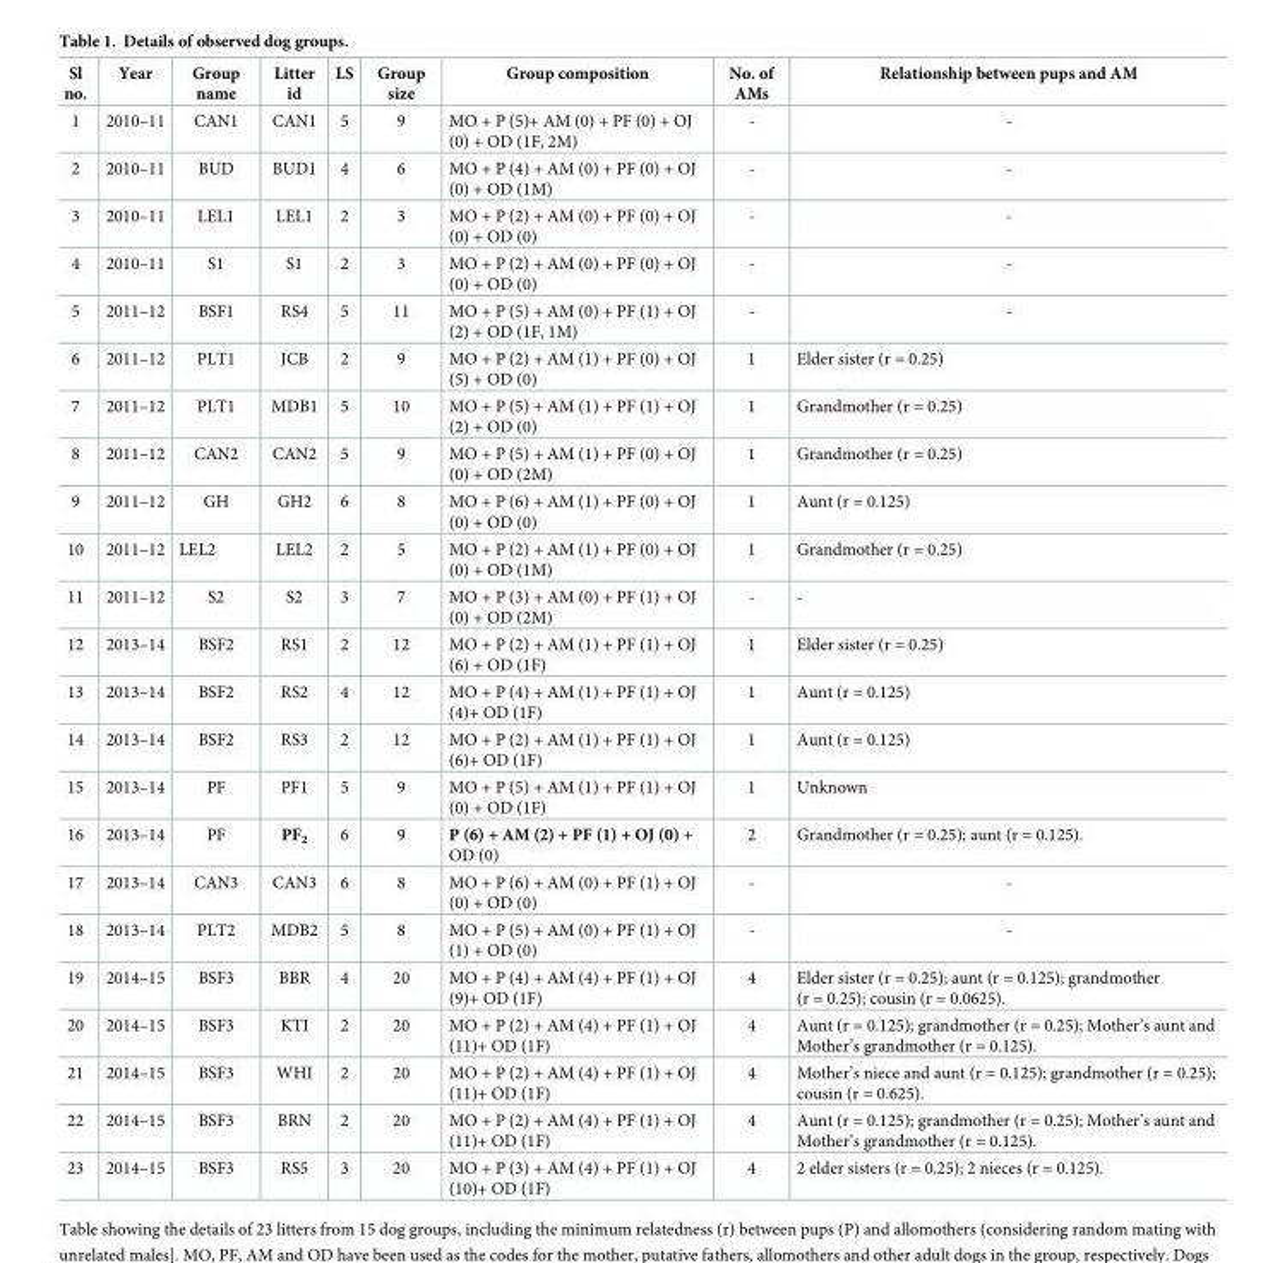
<table><thead><tr><td>Sl no.</td><td>Year</td><td>Group name</td><td>Litter id</td><td>LS</td><td>Group size</td><td>Group composition</td><td>No. of AMs</td><td>Relationship between pups and AM</td></tr></thead><tbody><tr><td>1</td><td>2010–11</td><td>CAN1</td><td>CAN1</td><td>5</td><td>9</td><td>MO + P (5)+ AM (0) + PF (0) + OJ (0) + OD (1F, 2M)</td><td>-</td><td>-</td></tr><tr><td>2</td><td>2010–11</td><td>BUD</td><td>BUD1</td><td>4</td><td>6</td><td>MO + P (4) + AM (0) + PF (0) + OJ (0) + OD (1M)</td><td>-</td><td>-</td></tr><tr><td>3</td><td>2010–11</td><td>LEL1</td><td>LEL1</td><td>2</td><td>3</td><td>MO + P (2) + AM (0) + PF (0) + OJ (0) + OD (0)</td><td>-</td><td>-</td></tr><tr><td>4</td><td>2010–11</td><td>S1</td><td>S1</td><td>2</td><td>3</td><td>MO + P (2) + AM (0) + PF (0) + OJ (0) + OD (0)</td><td>-</td><td>-</td></tr><tr><td>5</td><td>2011–12</td><td>BSF1</td><td>RS4</td><td>5</td><td>11</td><td>MO + P (5) + AM (0) + PF (1) + OJ (2) + OD (1F, 1M)</td><td>-</td><td>-</td></tr><tr><td>6</td><td>2011–12</td><td>PLT1</td><td>JCB</td><td>2</td><td>9</td><td>MO + P (2) + AM (1) + PF (0) + OJ (5) + OD (0)</td><td>1</td><td>Elder sister (r = 0.25)</td></tr><tr><td>7</td><td>2011–12</td><td>PLT1</td><td>MDB1</td><td>5</td><td>10</td><td>MO + P (5) + AM (1) + PF (1) + OJ (2) + OD (0)</td><td>1</td><td>Grandmother (r = 0.25)</td></tr><tr><td>8</td><td>2011–12</td><td>CAN2</td><td>CAN2</td><td>5</td><td>9</td><td>MO + P (5) + AM (1) + PF (0) + OJ (0) + OD (2M)</td><td>1</td><td>Grandmother (r = 0.25)</td></tr><tr><td>9</td><td>2011–12</td><td>GH</td><td>GH2</td><td>6</td><td>8</td><td>MO + P (6) + AM (1) + PF (0) + OJ (0) + OD (0)</td><td>1</td><td>Aunt (r = 0.125)</td></tr><tr><td>10</td><td>2011–12</td><td>LEL2</td><td>LEL2</td><td>2</td><td>5</td><td>MO + P (2) + AM (1) + PF (0) + OJ (0) + OD (1M)</td><td>1</td><td>Grandmother (r = 0.25)</td></tr><tr><td>11</td><td>2011–12</td><td>S2</td><td>S2</td><td>3</td><td>7</td><td>MO + P (3) + AM (0) + PF (1) + OJ (0) + OD (2M)</td><td>-</td><td>-</td></tr><tr><td>12</td><td>2013–14</td><td>BSF2</td><td>RS1</td><td>2</td><td>12</td><td>MO + P (2) + AM (1) + PF (1) + OJ (6) + OD (1F)</td><td>1</td><td>Elder sister (r = 0.25)</td></tr><tr><td>13</td><td>2013–14</td><td>BSF2</td><td>RS2</td><td>4</td><td>12</td><td>MO + P (4) + AM (1) + PF (1) + OJ (4)+ OD (1F)</td><td>1</td><td>Aunt (r = 0.125)</td></tr><tr><td>14</td><td>2013–14</td><td>BSF2</td><td>RS3</td><td>2</td><td>12</td><td>MO + P (2) + AM (1) + PF (1) + OJ (6)+ OD (1F)</td><td>1</td><td>Aunt (r = 0.125)</td></tr><tr><td>15</td><td>2013–14</td><td>PF</td><td>PF1</td><td>5</td><td>9</td><td>MO + P (5) + AM (1) + PF (1) + OJ (0) + OD (1F)</td><td>1</td><td>Unknown</td></tr><tr><td>16</td><td>2013–14</td><td>PF</td><td>PF<sub>2</sub></td><td>6</td><td>9</td><td>P (6) + AM (2) + PF (1) + OJ (0) + OD (0)</td><td>2</td><td>Grandmother (r = 0.25); aunt (r = 0.125).</td></tr><tr><td>17</td><td>2013–14</td><td>CAN3</td><td>CAN3</td><td>6</td><td>8</td><td>MO + P (6) + AM (0) + PF (1) + OJ (0) + OD (0)</td><td>-</td><td>-</td></tr><tr><td>18</td><td>2013–14</td><td>PLT2</td><td>MDB2</td><td>5</td><td>8</td><td>MO + P (5) + AM (0) + PF (1) + OJ (1) + OD (0)</td><td>-</td><td>-</td></tr><tr><td>19</td><td>2014–15</td><td>BSF3</td><td>BBR</td><td>4</td><td>20</td><td>MO + P (4) + AM (4) + PF (1) + OJ (9)+ OD (1F)</td><td>4</td><td>Elder sister (r = 0.25); aunt (r = 0.125); grandmother (r = 0.25); cousin (r = 0.0625).</td></tr><tr><td>20</td><td>2014–15</td><td>BSF3</td><td>KTI</td><td>2</td><td>20</td><td>MO + P (2) + AM (4) + PF (1) + OJ (11)+ OD (1F)</td><td>4</td><td>Aunt (r = 0.125); grandmother (r = 0.25); Mother’s aunt and Mother’s grandmother (r = 0.125).</td></tr><tr><td>21</td><td>2014–15</td><td>BSF3</td><td>WHI</td><td>2</td><td>20</td><td>MO + P (2) + AM (4) + PF (1) + OJ (11)+ OD (1F)</td><td>4</td><td>Mother’s niece and aunt (r = 0.125); grandmother (r = 0.25); cousin (r = 0.625).</td></tr><tr><td>22</td><td>2014–15</td><td>BSF3</td><td>BRN</td><td>2</td><td>20</td><td>MO + P (2) + AM (4) + PF (1) + OJ (11)+ OD (1F)</td><td>4</td><td>Aunt (r = 0.125); grandmother (r = 0.25); Mother’s aunt and Mother’s grandmother (r = 0.125).</td></tr><tr><td>23</td><td>2014–15</td><td>BSF3</td><td>RS5</td><td>3</td><td>20</td><td>MO + P (3) + AM (4) + PF (1) + OJ (10)+ OD (1F)</td><td>4</td><td>2 elder sisters (r = 0.25); 2 nieces (r = 0.125).</td></tr></tbody></table>